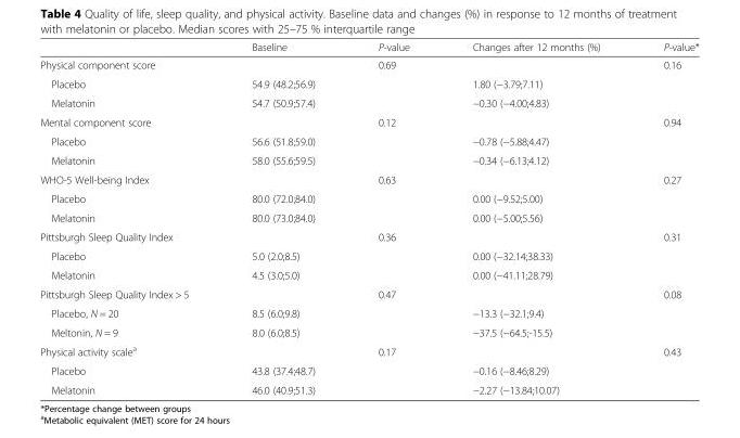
<table><thead><tr><td></td><td>Baseline</td><td>P-value</td><td>Changes after 12 months (%)</td><td>P-value*</td></tr></thead><tbody><tr><td>Physical component score</td><td></td><td>0.69</td><td></td><td>0.16</td></tr><tr><td>Placebo</td><td>54.9 (48.2;56.9)</td><td></td><td>1.80 (−3.79;7.11)</td><td></td></tr><tr><td>Melatonin</td><td>54.7 (50.9;57.4)</td><td></td><td>−0.30 (−4.00;4.83)</td><td></td></tr><tr><td>Mental component score</td><td></td><td>0.12</td><td></td><td>0.94</td></tr><tr><td>Placebo</td><td>56.6 (51.8;59.0)</td><td></td><td>−0.78 (−5.88;4.47)</td><td></td></tr><tr><td>Melatonin</td><td>58.0 (55.6;59.5)</td><td></td><td>−0.34 (−6.13;4.12)</td><td></td></tr><tr><td>WHO-5 Well-being Index</td><td></td><td>0.63</td><td></td><td>0.27</td></tr><tr><td>Placebo</td><td>80.0 (72.0;84.0)</td><td></td><td>0.00 (−9.52;5.00)</td><td></td></tr><tr><td>Melatonin</td><td>80.0 (73.0;84.0)</td><td></td><td>0.00 (−5.00;5.56)</td><td></td></tr><tr><td>Pittsburgh Sleep Quality Index</td><td></td><td>0.36</td><td></td><td>0.31</td></tr><tr><td>Placebo</td><td>5.0 (2.0;8.5)</td><td></td><td>0.00 (−32.14;38.33)</td><td></td></tr><tr><td>Melatonin</td><td>4.5 (3.0;5.0)</td><td></td><td>0.00 (−41.11;28.79)</td><td></td></tr><tr><td>Pittsburgh Sleep Quality Index &gt; 5</td><td></td><td>0.47</td><td></td><td>0.08</td></tr><tr><td>Placebo, N = 20</td><td>8.5 (6.0;9.8)</td><td></td><td>−13.3 (−32.1;9.4)</td><td></td></tr><tr><td>Meltonin, N = 9</td><td>8.0 (6.0;8.5)</td><td></td><td>−37.5 (−64.5;-15.5)</td><td></td></tr><tr><td>Physical activity scale<sup>a</sup></td><td></td><td>0.17</td><td></td><td>0.43</td></tr><tr><td>Placebo</td><td>43.8 (37.4;48.7)</td><td></td><td>−0.16 (−8.46;8.29)</td><td></td></tr><tr><td>Melatonin</td><td>46.0 (40.9;51.3)</td><td></td><td>−2.27 (−13.84;10.07)</td><td></td></tr></tbody></table>